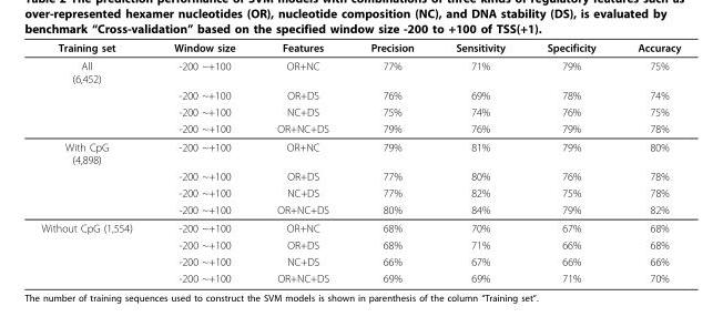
<table><thead><tr><td>Training set</td><td>Window size</td><td>Features</td><td>Precision</td><td>Sensitivity</td><td>Specificity</td><td>Accuracy</td></tr></thead><tbody><tr><td rowspan="4">All (6,452)</td><td>-200 ~+100</td><td>OR+NC</td><td>77%</td><td>71%</td><td>79%</td><td>75%</td></tr><tr><td>-200 ~+100</td><td>OR+DS</td><td>76%</td><td>69%</td><td>78%</td><td>74%</td></tr><tr><td>-200 ~+100</td><td>NC+DS</td><td>75%</td><td>74%</td><td>76%</td><td>75%</td></tr><tr><td>-200 ~+100</td><td>OR+NC+DS</td><td>79%</td><td>76%</td><td>79%</td><td>78%</td></tr><tr><td rowspan="4">With CpG (4,898)</td><td>-200 ~+100</td><td>OR+NC</td><td>79%</td><td>81%</td><td>79%</td><td>80%</td></tr><tr><td>-200 ~+100</td><td>OR+DS</td><td>77%</td><td>80%</td><td>76%</td><td>78%</td></tr><tr><td>-200 ~+100</td><td>NC+DS</td><td>77%</td><td>82%</td><td>75%</td><td>78%</td></tr><tr><td>-200 ~+100</td><td>OR+NC+DS</td><td>80%</td><td>84%</td><td>79%</td><td>82%</td></tr><tr><td rowspan="4">Without CpG (1,554)</td><td>-200 ~+100</td><td>OR+NC</td><td>68%</td><td>70%</td><td>67%</td><td>68%</td></tr><tr><td>-200 ~+100</td><td>OR+DS</td><td>68%</td><td>71%</td><td>66%</td><td>68%</td></tr><tr><td>-200 ~+100</td><td>NC+DS</td><td>66%</td><td>67%</td><td>66%</td><td>66%</td></tr><tr><td>-200 ~+100</td><td>OR+NC+DS</td><td>69%</td><td>69%</td><td>71%</td><td>70%</td></tr></tbody></table>